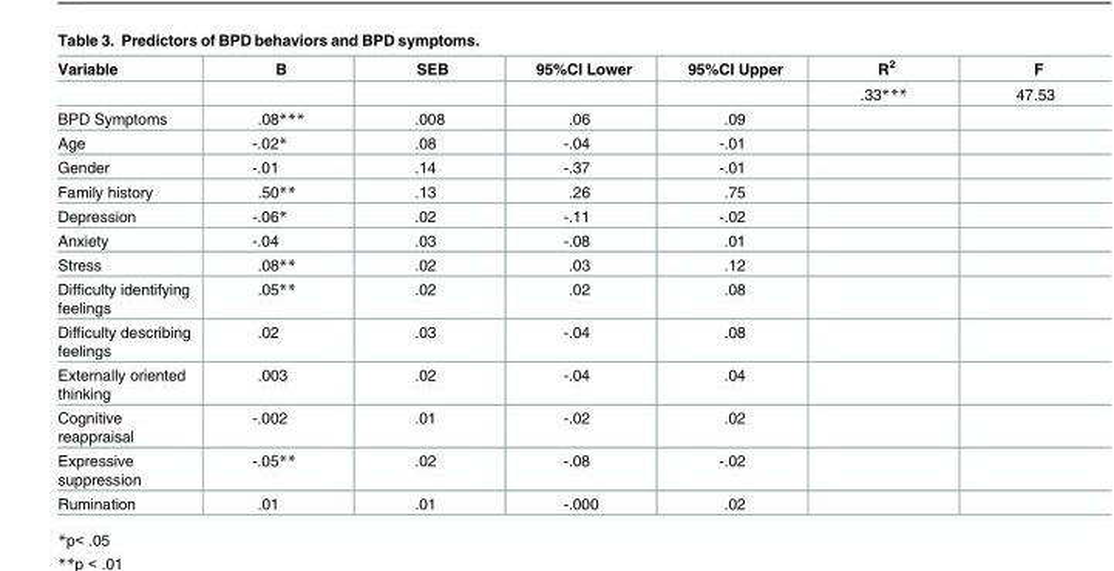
<table><thead><tr><td>Variable</td><td>B</td><td>SEB</td><td>95%CI Lower</td><td>95%CI Upper</td><td>R<sup>2</sup></td><td>F</td></tr></thead><tbody><tr><td></td><td></td><td></td><td></td><td></td><td>.33***</td><td>47.53</td></tr><tr><td>BPD Symptoms</td><td>.08***</td><td>.008</td><td>.06</td><td>.09</td><td></td><td></td></tr><tr><td>Age</td><td>-.02*</td><td>.08</td><td>-.04</td><td>-.01</td><td></td><td></td></tr><tr><td>Gender</td><td>-.01</td><td>.14</td><td>-.37</td><td>-.01</td><td></td><td></td></tr><tr><td>Family history</td><td>.50**</td><td>.13</td><td>.26</td><td>.75</td><td></td><td></td></tr><tr><td>Depression</td><td>-.06*</td><td>.02</td><td>-.11</td><td>-.02</td><td></td><td></td></tr><tr><td>Anxiety</td><td>-.04</td><td>.03</td><td>-.08</td><td>.01</td><td></td><td></td></tr><tr><td>Stress</td><td>.08**</td><td>.02</td><td>.03</td><td>.12</td><td></td><td></td></tr><tr><td>Difficulty identifying feelings</td><td>.05**</td><td>.02</td><td>.02</td><td>.08</td><td></td><td></td></tr><tr><td>Difficulty describing feelings</td><td>.02</td><td>.03</td><td>-.04</td><td>.08</td><td></td><td></td></tr><tr><td>Externally oriented thinking</td><td>.003</td><td>.02</td><td>-.04</td><td>.04</td><td></td><td></td></tr><tr><td>Cognitive reappraisal</td><td>-.002</td><td>.01</td><td>-.02</td><td>.02</td><td></td><td></td></tr><tr><td>Expressive suppression</td><td>-.05**</td><td>.02</td><td>-.08</td><td>-.02</td><td></td><td></td></tr><tr><td>Rumination</td><td>.01</td><td>.01</td><td>-.000</td><td>.02</td><td></td><td></td></tr></tbody></table>